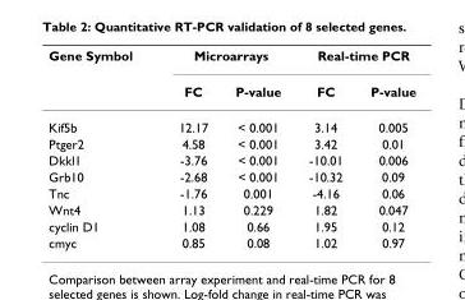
<table><thead><tr><td rowspan="2">Gene Symbol</td><td colspan="2">Microarrays</td><td colspan="2">Real-time PCR</td></tr><tr><td>FC</td><td>P-value</td><td>FC</td><td>P-value</td></tr></thead><tbody><tr><td>Kif5b</td><td>12.17</td><td>&lt; 0.001</td><td>3.14</td><td>0.005</td></tr><tr><td>Ptger2</td><td>4.58</td><td>&lt; 0.001</td><td>3.42</td><td>0.01</td></tr><tr><td>Dkkl1</td><td>-3.76</td><td>&lt; 0.001</td><td>-10.01</td><td>0.006</td></tr><tr><td>Grb10</td><td>-2.68</td><td>&lt; 0.001</td><td>-10.32</td><td>0.09</td></tr><tr><td>Tnc</td><td>-1.76</td><td>0.001</td><td>-4.16</td><td>0.06</td></tr><tr><td>Wnt4</td><td>1.13</td><td>0.229</td><td>1.82</td><td>0.047</td></tr><tr><td>cyclin D1</td><td>1.08</td><td>0.66</td><td>1.95</td><td>0.12</td></tr><tr><td>cmyc</td><td>0.85</td><td>0.08</td><td>1.02</td><td>0.97</td></tr></tbody></table>